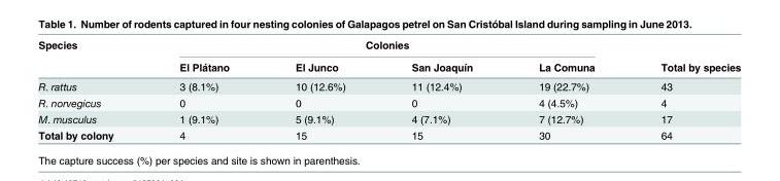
<table><thead><tr><td rowspan="2">Species</td><td colspan="4">Colonies</td><td rowspan="2">Total by species</td></tr><tr><td>El Plátano</td><td>El Junco</td><td>San Joaquín</td><td>La Comuna</td></tr></thead><tbody><tr><td>R. rattus</td><td>3 (8.1%)</td><td>10 (12.6%)</td><td>11 (12.4%)</td><td>19 (22.7%)</td><td>43</td></tr><tr><td>R. norvegicus</td><td>0</td><td>0</td><td>0</td><td>4 (4.5%)</td><td>4</td></tr><tr><td>M. musculus</td><td>1 (9.1%)</td><td>5 (9.1%)</td><td>4 (7.1%)</td><td>7 (12.7%)</td><td>17</td></tr><tr><td>Total by colony</td><td>4</td><td>15</td><td>15</td><td>30</td><td>64</td></tr></tbody></table>